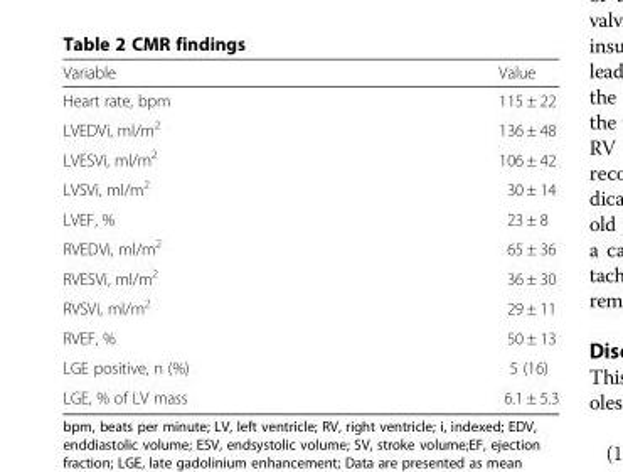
<table><thead><tr><td>Variable</td><td>Value</td></tr></thead><tbody><tr><td>Heart rate, bpm</td><td>115 ± 22</td></tr><tr><td>LVEDVi, ml/m<sup>2</sup></td><td>136 ± 48</td></tr><tr><td>LVESVi, ml/m<sup>2</sup></td><td>106 ± 42</td></tr><tr><td>LVSVi, ml/m<sup>2</sup></td><td>30 ± 14</td></tr><tr><td>LVEF, %</td><td>23 ± 8</td></tr><tr><td>RVEDVi, ml/m<sup>2</sup></td><td>65 ± 36</td></tr><tr><td>RVESVi, ml/m<sup>2</sup></td><td>36 ± 30</td></tr><tr><td>RVSVi, ml/m<sup>2</sup></td><td>29 ± 11</td></tr><tr><td>RVEF, %</td><td>50 ± 13</td></tr><tr><td>LGE positive, n (%)</td><td>5 (16)</td></tr><tr><td>LGE, % of LV mass</td><td>6.1 ± 5.3</td></tr></tbody></table>